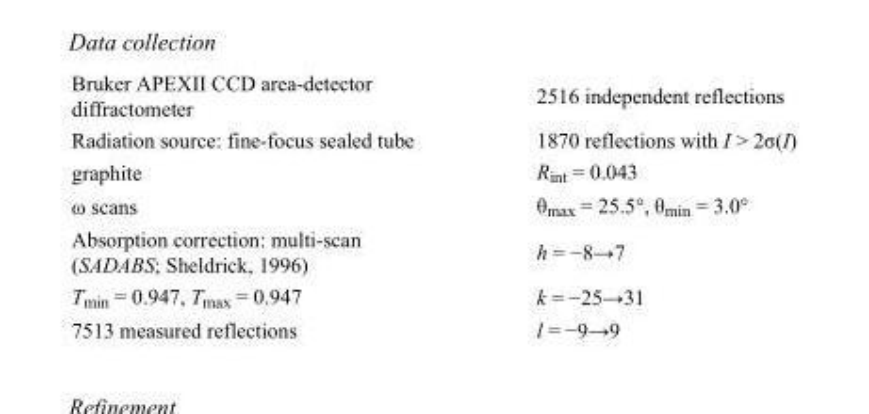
<table><tbody><tr><td>Bruker APEXII CCD area-detector diffractometer</td><td>2516 independent reflections</td></tr><tr><td>Radiation source: fine-focus sealed tube</td><td>1870 reflections with I &gt; 2σ(I)</td></tr><tr><td>graphite</td><td>R<sub>int</sub> = 0.043</td></tr><tr><td>ω scans</td><td>θ<sub>max</sub> = 25.5°, θ<sub>min</sub> = 3.0°</td></tr><tr><td>Absorption correction: multi-scan (SADABS; Sheldrick, 1996)</td><td>h = −8→7</td></tr><tr><td>T<sub>min</sub> = 0.947, T<sub>max</sub> = 0.947</td><td>k = −25→31</td></tr><tr><td>7513 measured reflections</td><td>l = −9→9</td></tr></tbody></table>